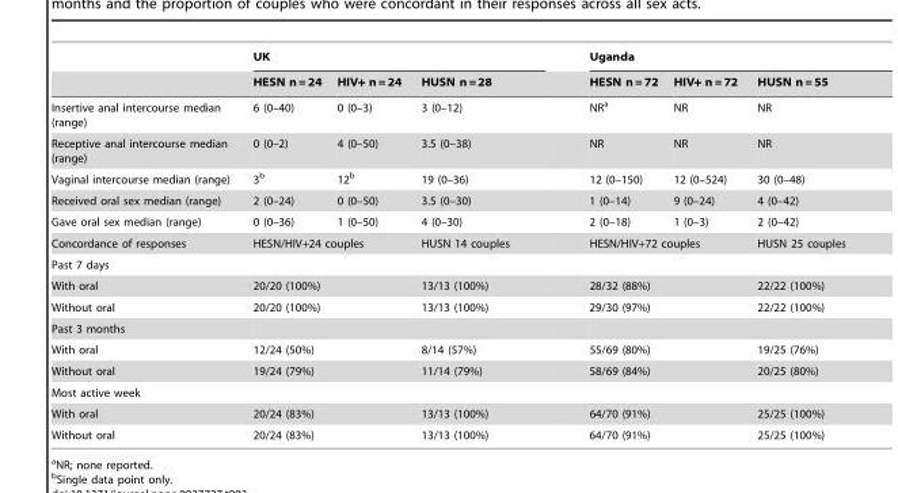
<table><thead><tr><td rowspan="2"></td><td colspan="3">UK</td><td colspan="3">Uganda</td></tr><tr><td>HESN n = 24</td><td>HIV+ n = 24</td><td>HUSN n = 28</td><td>HESN n = 72</td><td>HIV+ n = 72</td><td>HUSN n = 55</td></tr></thead><tbody><tr><td>Insertive anal intercourse median (range)</td><td>6 (0–40)</td><td>0 (0–3)</td><td>3 (0–12)</td><td>NR<sup>a</sup></td><td>NR</td><td>NR</td></tr><tr><td>Receptive anal intercourse median (range)</td><td>0 (0–2)</td><td>4 (0–50)</td><td>3.5 (0–38)</td><td>NR</td><td>NR</td><td>NR</td></tr><tr><td>Vaginal intercourse median (range)</td><td>3<sup>b</sup></td><td>12<sup>b</sup></td><td>19 (0–36)</td><td>12 (0–150)</td><td>12 (0–524)</td><td>30 (0–48)</td></tr><tr><td>Received oral sex median (range)</td><td>2 (0–24)</td><td>0 (0–50)</td><td>3.5 (0–30)</td><td>1 (0–14)</td><td>9 (0–24)</td><td>4 (0–42)</td></tr><tr><td>Gave oral sex median (range)</td><td>0 (0–36)</td><td>1 (0–50)</td><td>4 (0–30)</td><td>2 (0–18)</td><td>1 (0–3)</td><td>2 (0–42)</td></tr><tr><td>Concordance of responses</td><td colspan="2">HESN/HIV+24 couples</td><td>HUSN 14 couples</td><td colspan="2">HESN/HIV+72 couples</td><td>HUSN 25 couples</td></tr><tr><td colspan="7">Past 7 days</td></tr><tr><td>With oral</td><td colspan="2">20/20 (100%)</td><td>13/13 (100%)</td><td colspan="2">28/32 (88%)</td><td>22/22 (100%)</td></tr><tr><td>Without oral</td><td colspan="2">20/20 (100%)</td><td>13/13 (100%)</td><td colspan="2">29/30 (97%)</td><td>22/22 (100%)</td></tr><tr><td colspan="7">Past 3 months</td></tr><tr><td>With oral</td><td colspan="2">12/24 (50%)</td><td>8/14 (57%)</td><td colspan="2">55/69 (80%)</td><td>19/25 (76%)</td></tr><tr><td>Without oral</td><td colspan="2">19/24 (79%)</td><td>11/14 (79%)</td><td colspan="2">58/69 (84%)</td><td>20/25 (80%)</td></tr><tr><td colspan="7">Most active week</td></tr><tr><td>With oral</td><td colspan="2">20/24 (83%)</td><td>13/13 (100%)</td><td colspan="2">64/70 (91%)</td><td>25/25 (100%)</td></tr><tr><td>Without oral</td><td colspan="2">20/24 (83%)</td><td>13/13 (100%)</td><td colspan="2">64/70 (91%)</td><td>25/25 (100%)</td></tr></tbody></table>